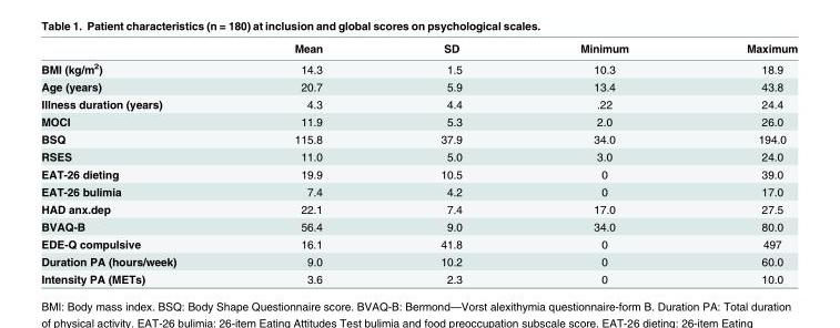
<table><thead><tr><td></td><td>Mean</td><td>SD</td><td>Minimum</td><td>Maximum</td></tr></thead><tbody><tr><td>BMI (kg/m<sup>2</sup>)</td><td>14.3</td><td>1.5</td><td>10.3</td><td>18.9</td></tr><tr><td>Age (years)</td><td>20.7</td><td>5.9</td><td>13.4</td><td>43.8</td></tr><tr><td>Illness duration (years)</td><td>4.3</td><td>4.4</td><td>.22</td><td>24.4</td></tr><tr><td>MOCI</td><td>11.9</td><td>5.3</td><td>2.0</td><td>26.0</td></tr><tr><td>BSQ</td><td>115.8</td><td>37.9</td><td>34.0</td><td>194.0</td></tr><tr><td>RSES</td><td>11.0</td><td>5.0</td><td>3.0</td><td>24.0</td></tr><tr><td>EAT-26 dieting</td><td>19.9</td><td>10.5</td><td>0</td><td>39.0</td></tr><tr><td>EAT-26 bulimia</td><td>7.4</td><td>4.2</td><td>0</td><td>17.0</td></tr><tr><td>HAD anx.dep</td><td>22.1</td><td>7.4</td><td>17.0</td><td>27.5</td></tr><tr><td>BVAQ-B</td><td>56.4</td><td>9.0</td><td>34.0</td><td>80.0</td></tr><tr><td>EDE-Q compulsive</td><td>16.1</td><td>41.8</td><td>0</td><td>497</td></tr><tr><td>Duration PA (hours/week)</td><td>9.0</td><td>10.2</td><td>0</td><td>60.0</td></tr><tr><td>Intensity PA (METs)</td><td>3.6</td><td>2.3</td><td>0</td><td>10.0</td></tr></tbody></table>